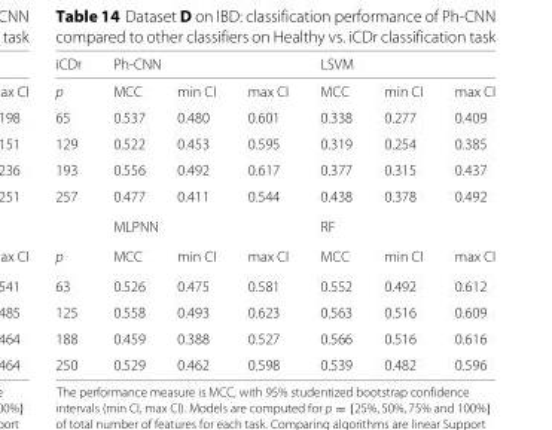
<table><thead><tr><td rowspan="2">iCDr p</td><td colspan="3">Ph-CNN</td><td colspan="3">LSVM</td></tr><tr><td>MCC</td><td>min CI</td><td>max CI</td><td>MCC</td><td>min CI</td><td>max CI</td></tr></thead><tbody><tr><td>65</td><td>0.537</td><td>0.480</td><td>0.601</td><td>0.338</td><td>0.277</td><td>0.409</td></tr><tr><td>129</td><td>0.522</td><td>0.453</td><td>0.595</td><td>0.319</td><td>0.254</td><td>0.385</td></tr><tr><td>193</td><td>0.556</td><td>0.492</td><td>0.617</td><td>0.377</td><td>0.315</td><td>0.437</td></tr><tr><td rowspan="2">257</td><td>0.477</td><td>0.411</td><td>0.544</td><td>0.438</td><td>0.378</td><td>0.492</td></tr><tr><td colspan="3">MLPNN</td><td colspan="3">RF</td></tr><tr><td>p</td><td>MCC</td><td>min CI</td><td>max CI</td><td>MCC</td><td>min CI</td><td>max CI</td></tr><tr><td>63</td><td>0.526</td><td>0.475</td><td>0.581</td><td>0.552</td><td>0.492</td><td>0.612</td></tr><tr><td>125</td><td>0.558</td><td>0.493</td><td>0.623</td><td>0.563</td><td>0.516</td><td>0.609</td></tr><tr><td>188</td><td>0.459</td><td>0.388</td><td>0.527</td><td>0.566</td><td>0.516</td><td>0.616</td></tr><tr><td>250</td><td>0.529</td><td>0.462</td><td>0.598</td><td>0.539</td><td>0.482</td><td>0.596</td></tr></tbody></table>